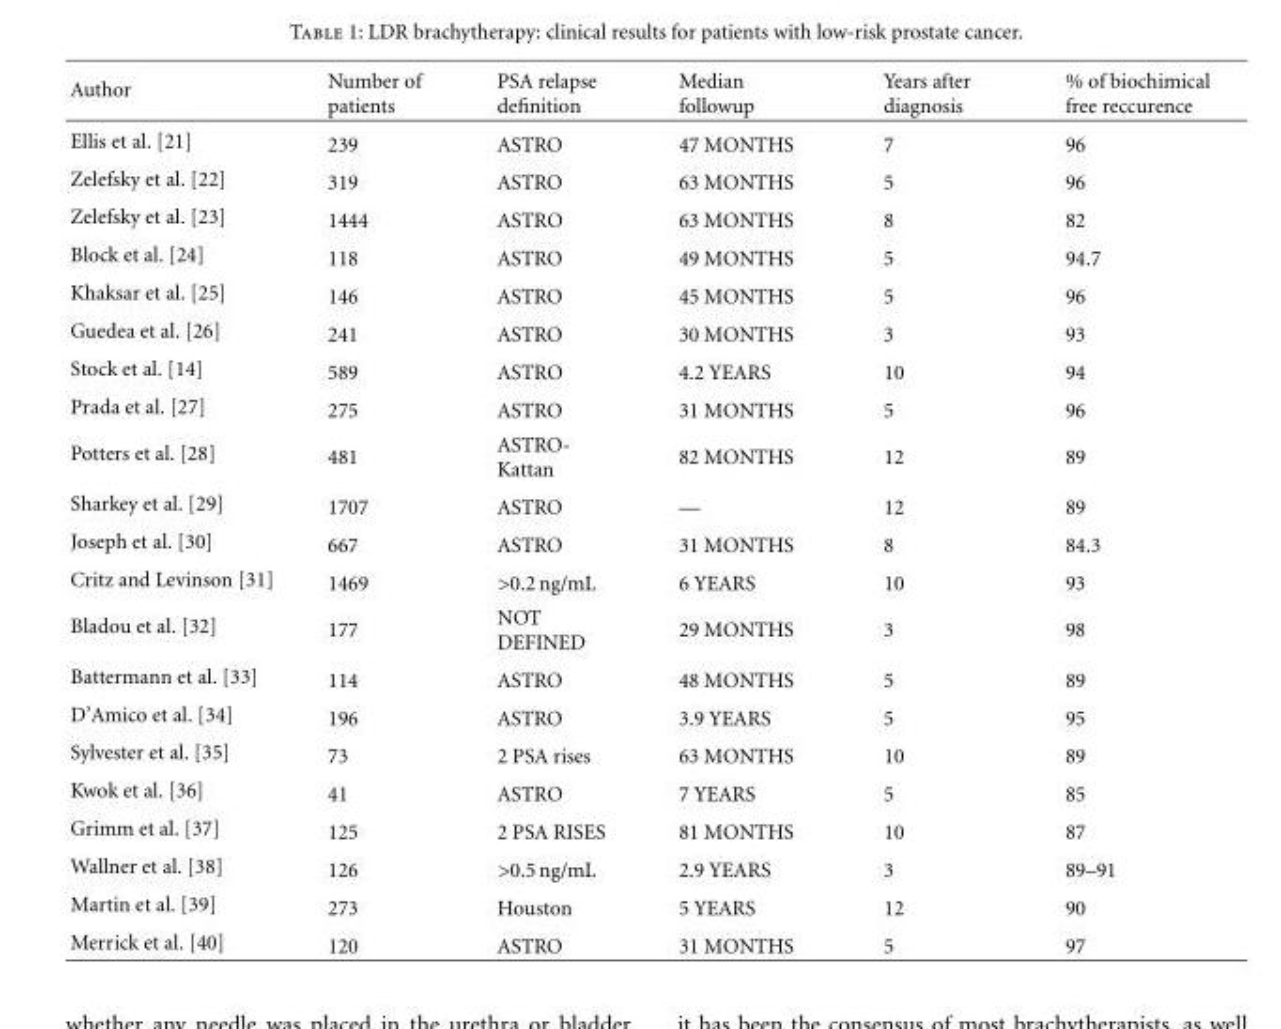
<table><thead><tr><td>Author</td><td>Number of patients</td><td>PSA relapse definition</td><td>Median followup</td><td>Years after diagnosis</td><td>% of biochimical free reccurence</td></tr></thead><tbody><tr><td>Ellis et al. [21]</td><td>239</td><td>ASTRO</td><td>47 MONTHS</td><td>7</td><td>96</td></tr><tr><td>Zelefsky et al. [22]</td><td>319</td><td>ASTRO</td><td>63 MONTHS</td><td>5</td><td>96</td></tr><tr><td>Zelefsky et al. [23]</td><td>1444</td><td>ASTRO</td><td>63 MONTHS</td><td>8</td><td>82</td></tr><tr><td>Block et al. [24]</td><td>118</td><td>ASTRO</td><td>49 MONTHS</td><td>5</td><td>94.7</td></tr><tr><td>Khaksar et al. [25]</td><td>146</td><td>ASTRO</td><td>45 MONTHS</td><td>5</td><td>96</td></tr><tr><td>Guedea et al. [26]</td><td>241</td><td>ASTRO</td><td>30 MONTHS</td><td>3</td><td>93</td></tr><tr><td>Stock et al. [14]</td><td>589</td><td>ASTRO</td><td>4.2 YEARS</td><td>10</td><td>94</td></tr><tr><td>Prada et al. [27]</td><td>275</td><td>ASTRO</td><td>31 MONTHS</td><td>5</td><td>96</td></tr><tr><td>Potters et al. [28]</td><td>481</td><td>ASTRO- Kattan</td><td>82 MONTHS</td><td>12</td><td>89</td></tr><tr><td>Sharkey et al. [29]</td><td>1707</td><td>ASTRO</td><td>—</td><td>12</td><td>89</td></tr><tr><td>Joseph et al. [30]</td><td>667</td><td>ASTRO</td><td>31 MONTHS</td><td>8</td><td>84.3</td></tr><tr><td>Critz and Levinson [31]</td><td>1469</td><td>&gt;0.2 ng/mL</td><td>6 YEARS</td><td>10</td><td>93</td></tr><tr><td>Bladou et al. [32]</td><td>177</td><td>NOT DEFINED</td><td>29 MONTHS</td><td>3</td><td>98</td></tr><tr><td>Battermann et al. [33]</td><td>114</td><td>ASTRO</td><td>48 MONTHS</td><td>5</td><td>89</td></tr><tr><td>D’Amico et al. [34]</td><td>196</td><td>ASTRO</td><td>3.9 YEARS</td><td>5</td><td>95</td></tr><tr><td>Sylvester et al. [35]</td><td>73</td><td>2 PSA rises</td><td>63 MONTHS</td><td>10</td><td>89</td></tr><tr><td>Kwok et al. [36]</td><td>41</td><td>ASTRO</td><td>7 YEARS</td><td>5</td><td>85</td></tr><tr><td>Grimm et al. [37]</td><td>125</td><td>2 PSA RISES</td><td>81 MONTHS</td><td>10</td><td>87</td></tr><tr><td>Wallner et al. [38]</td><td>126</td><td>&gt;0.5 ng/mL</td><td>2.9 YEARS</td><td>3</td><td>89–91</td></tr><tr><td>Martin et al. [39]</td><td>273</td><td>Houston</td><td>5 YEARS</td><td>12</td><td>90</td></tr><tr><td>Merrick et al. [40]</td><td>120</td><td>ASTRO</td><td>31 MONTHS</td><td>5</td><td>97</td></tr></tbody></table>